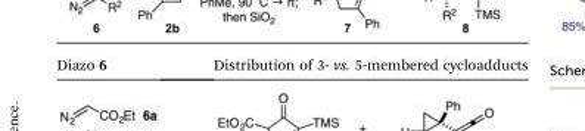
<table><thead><tr><td>Diazo 6</td><td>Distribution of 3- vs. 5-membered cycloadducts</td></tr></thead><tbody></tbody></table>